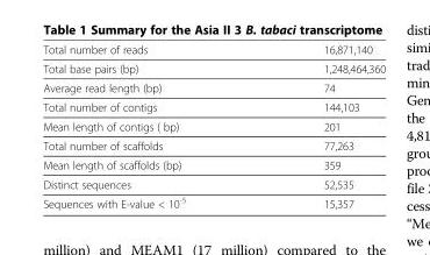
<table><thead><tr><td>Total number of reads</td><td>16,871,140</td></tr></thead><tbody><tr><td>Total base pairs (bp)</td><td>1,248,464,360</td></tr><tr><td>Average read length (bp)</td><td>74</td></tr><tr><td>Total number of contigs</td><td>144,103</td></tr><tr><td>Mean length of contigs ( bp)</td><td>201</td></tr><tr><td>Total number of scaffolds</td><td>77,263</td></tr><tr><td>Mean length of scaffolds (bp)</td><td>359</td></tr><tr><td>Distinct sequences</td><td>52,535</td></tr><tr><td>Sequences with E-value &lt; 10<sup>-5</sup></td><td>15,357</td></tr></tbody></table>